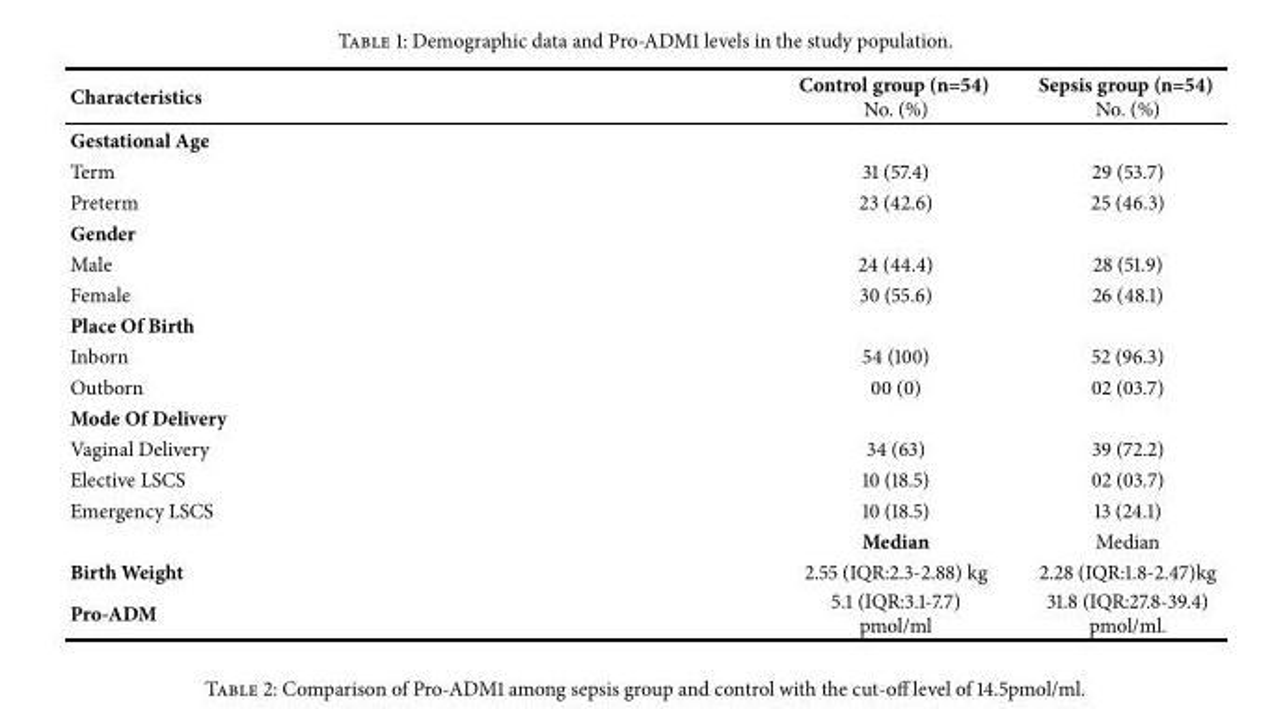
<table><thead><tr><td>Characteristics</td><td>Control group (n=54) No. (%)</td><td>Sepsis group (n=54) No. (%)</td></tr></thead><tbody><tr><td colspan="3">Gestational Age</td></tr><tr><td>Term</td><td>31 (57.4)</td><td>29 (53.7)</td></tr><tr><td>Preterm</td><td>23 (42.6)</td><td>25 (46.3)</td></tr><tr><td colspan="3">Gender</td></tr><tr><td>Male</td><td>24 (44.4)</td><td>28 (51.9)</td></tr><tr><td>Female</td><td>30 (55.6)</td><td>26 (48.1)</td></tr><tr><td colspan="3">Place Of Birth</td></tr><tr><td>Inborn</td><td>54 (100)</td><td>52 (96.3)</td></tr><tr><td>Outborn</td><td>00 (0)</td><td>02 (03.7)</td></tr><tr><td colspan="3">Mode Of Delivery</td></tr><tr><td>Vaginal Delivery</td><td>34 (63)</td><td>39 (72.2)</td></tr><tr><td>Elective LSCS</td><td>10 (18.5)</td><td>02 (03.7)</td></tr><tr><td rowspan="2">Emergency LSCS</td><td>10 (18.5)</td><td>13 (24.1)</td></tr><tr><td>Median</td><td>Median</td></tr><tr><td>Birth Weight</td><td>2.55 (IQR:2.3-2.88) kg</td><td>2.28 (IQR:1.8-2.47)kg</td></tr><tr><td>Pro-ADM</td><td>5.1 (IQR:3.1-7.7) pmol/ml</td><td>31.8 (IQR:27.8-39.4) pmol/ml.</td></tr></tbody></table>